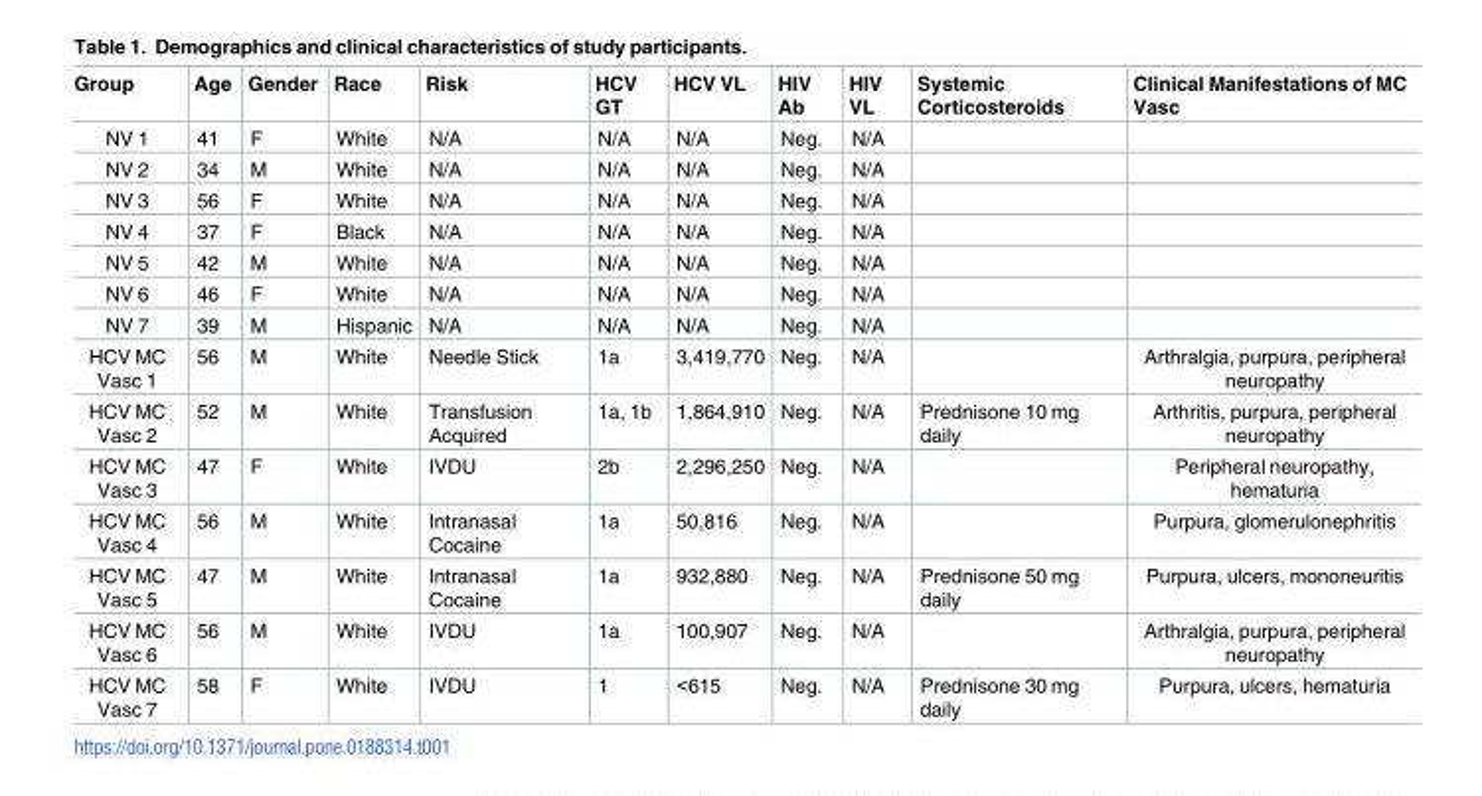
<table><thead><tr><td>Group</td><td>Age</td><td>Gender</td><td>Race</td><td>Risk</td><td>HCV GT</td><td>HCV VL</td><td>HIV Ab</td><td>HIV VL</td><td>Systemic Corticosteroids</td><td>Clinical Manifestations of MC Vasc</td></tr></thead><tbody><tr><td>NV 1</td><td>41</td><td>F</td><td>White</td><td>N/A</td><td>N/A</td><td>N/A</td><td>Neg.</td><td>N/A</td><td></td><td></td></tr><tr><td>NV 2</td><td>34</td><td>M</td><td>White</td><td>N/A</td><td>N/A</td><td>N/A</td><td>Neg.</td><td>N/A</td><td></td><td></td></tr><tr><td>NV 3</td><td>56</td><td>F</td><td>White</td><td>N/A</td><td>N/A</td><td>N/A</td><td>Neg.</td><td>N/A</td><td></td><td></td></tr><tr><td>NV 4</td><td>37</td><td>F</td><td>Black</td><td>N/A</td><td>N/A</td><td>N/A</td><td>Neg.</td><td>N/A</td><td></td><td></td></tr><tr><td>NV 5</td><td>42</td><td>M</td><td>White</td><td>N/A</td><td>N/A</td><td>N/A</td><td>Neg.</td><td>N/A</td><td></td><td></td></tr><tr><td>NV 6</td><td>46</td><td>F</td><td>White</td><td>N/A</td><td>N/A</td><td>N/A</td><td>Neg.</td><td>N/A</td><td></td><td></td></tr><tr><td>NV 7</td><td>39</td><td>M</td><td>Hispanic</td><td>N/A</td><td>N/A</td><td>N/A</td><td>Neg.</td><td>N/A</td><td></td><td></td></tr><tr><td>HCV MC Vasc 1</td><td>56</td><td>M</td><td>White</td><td>Needle Stick</td><td>1a</td><td>3,419,770</td><td>Neg.</td><td>N/A</td><td></td><td>Arthralgia, purpura, peripheral neuropathy</td></tr><tr><td>HCV MC Vasc 2</td><td>52</td><td>M</td><td>White</td><td>Transfusion Acquired</td><td>1a, 1b</td><td>1,864,910</td><td>Neg.</td><td>N/A</td><td>Prednisone 10 mg daily</td><td>Arthritis, purpura, peripheral neuropathy</td></tr><tr><td>HCV MC Vasc 3</td><td>47</td><td>F</td><td>White</td><td>IVDU</td><td>2b</td><td>2,296,250</td><td>Neg.</td><td>N/A</td><td></td><td>Peripheral neuropathy, hematuria</td></tr><tr><td>HCV MC Vasc 4</td><td>56</td><td>M</td><td>White</td><td>Intranasal Cocaine</td><td>1a</td><td>50,816</td><td>Neg.</td><td>N/A</td><td></td><td>Purpura, glomerulonephritis</td></tr><tr><td>HCV MC Vasc 5</td><td>47</td><td>M</td><td>White</td><td>Intranasal Cocaine</td><td>1a</td><td>932,880</td><td>Neg.</td><td>N/A</td><td>Prednisone 50 mg daily</td><td>Purpura, ulcers, mononeuritis</td></tr><tr><td>HCV MC Vasc 6</td><td>56</td><td>M</td><td>White</td><td>IVDU</td><td>1a</td><td>100,907</td><td>Neg.</td><td>N/A</td><td></td><td>Arthralgia, purpura, peripheral neuropathy</td></tr><tr><td>HCV MC Vasc 7</td><td>58</td><td>F</td><td>White</td><td>IVDU</td><td>1</td><td>&lt;615</td><td>Neg.</td><td>N/A</td><td>Prednisone 30 mg daily</td><td>Purpura, ulcers, hematuria</td></tr></tbody></table>